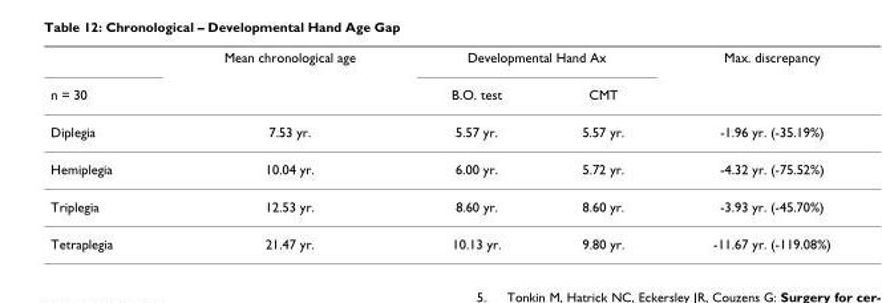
<table><thead><tr><td rowspan="2">n = 30</td><td rowspan="2">Mean chronological age</td><td colspan="2">Developmental Hand Ax</td><td rowspan="2">Max. discrepancy</td></tr><tr><td>B.O. test</td><td>CMT</td></tr></thead><tbody><tr><td>Diplegia</td><td>7.53 yr.</td><td>5.57 yr.</td><td>5.57 yr.</td><td>-1.96 yr. (-35.19%)</td></tr><tr><td>Hemiplegia</td><td>10.04 yr.</td><td>6.00 yr.</td><td>5.72 yr.</td><td>-4.32 yr. (-75.52%)</td></tr><tr><td>Triplegia</td><td>12.53 yr.</td><td>8.60 yr.</td><td>8.60 yr.</td><td>-3.93 yr. (-45.70%)</td></tr><tr><td>Tetraplegia</td><td>21.47 yr.</td><td>10.13 yr.</td><td>9.80 yr.</td><td>-11.67 yr. (-119.08%)</td></tr></tbody></table>